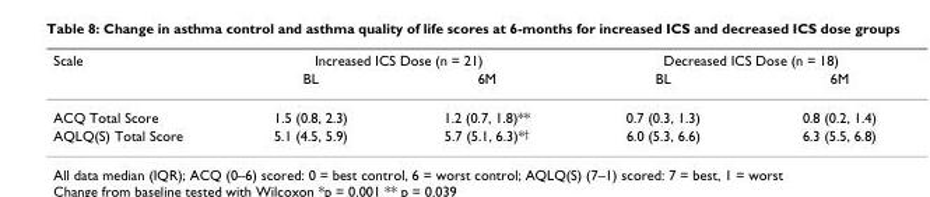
<table><thead><tr><td rowspan="2">Scale</td><td colspan="2">Increased ICS Dose (n = 21)</td><td colspan="2">Decreased ICS Dose (n = 18)</td></tr><tr><td>BL</td><td>6M</td><td>BL</td><td>6M</td></tr></thead><tbody><tr><td>ACQ Total Score</td><td>1.5 (0.8, 2.3)</td><td>1.2 (0.7, 1.8)**</td><td>0.7 (0.3, 1.3)</td><td>0.8 (0.2, 1.4)</td></tr><tr><td>AQLQ(S) Total Score</td><td>5.1 (4.5, 5.9)</td><td>5.7 (5.1, 6.3)*<sup>†</sup></td><td>6.0 (5.3, 6.6)</td><td>6.3 (5.5, 6.8)</td></tr></tbody></table>